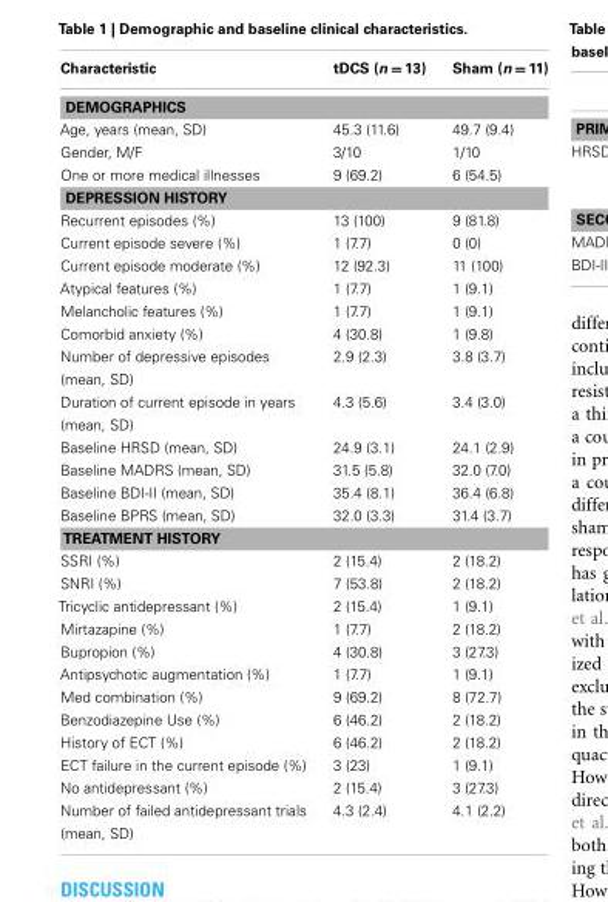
<table><thead><tr><td>Characteristic</td><td>tDCS (n = 13)</td><td>Sham (n = 11)</td></tr></thead><tbody><tr><td colspan="3">DEMOGRAPHICS</td></tr><tr><td>Age, years (mean, SD)</td><td>45.3 (11.6)</td><td>49.7 (9.4)</td></tr><tr><td>Gender, M/F</td><td>3/10</td><td>1/10</td></tr><tr><td>One or more medical illnesses</td><td>9 (69.2)</td><td>6 (54.5)</td></tr><tr><td colspan="3">DEPRESSION HISTORY</td></tr><tr><td>Recurrent episodes (%)</td><td>13 (100)</td><td>9 (81.8)</td></tr><tr><td>Current episode severe (%)</td><td>1 (7.7)</td><td>0 (0)</td></tr><tr><td>Current episode moderate (%)</td><td>12 (92.3)</td><td>11 (100)</td></tr><tr><td>Atypical features (%)</td><td>1 (7.7)</td><td>1 (9.1)</td></tr><tr><td>Melancholic features (%)</td><td>1 (7.7)</td><td>1 (9.1)</td></tr><tr><td>Comorbid anxiety (%)</td><td>4 (30.8)</td><td>1 (9.8)</td></tr><tr><td>Number of depressive episodes (mean, SD)</td><td>2.9 (2.3)</td><td>3.8 (3.7)</td></tr><tr><td>Duration of current episode in years (mean, SD)</td><td>4.3 (5.6)</td><td>3.4 (3.0)</td></tr><tr><td>Baseline HRSD (mean, SD)</td><td>24.9 (3.1)</td><td>24.1 (2.9)</td></tr><tr><td>Baseline MADRS (mean, SD)</td><td>31.5 (5.8)</td><td>32.0 (7.0)</td></tr><tr><td>Baseline BDI-II (mean, SD)</td><td>35.4 (8.1)</td><td>36.4 (6.8)</td></tr><tr><td>Baseline BPRS (mean, SD)</td><td>32.0 (3.3)</td><td>31.4 (3.7)</td></tr><tr><td colspan="3">TREATMENT HISTORY</td></tr><tr><td>SSRI (%)</td><td>2 (15.4)</td><td>2 (18.2)</td></tr><tr><td>SNRI (%)</td><td>7 (53.8)</td><td>2 (18.2)</td></tr><tr><td>Tricyclic antidepressant (%)</td><td>2 (15.4)</td><td>1 (9.1)</td></tr><tr><td>Mirtazapine (%)</td><td>1 (7.7)</td><td>2 (18.2)</td></tr><tr><td>Bupropion (%)</td><td>4 (30.8)</td><td>3 (27.3)</td></tr><tr><td>Antipsychotic augmentation (%)</td><td>1 (7.7)</td><td>1 (9.1)</td></tr><tr><td>Med combination (%)</td><td>9 (69.2)</td><td>8 (72.7)</td></tr><tr><td>Benzodiazepine Use (%)</td><td>6 (46.2)</td><td>2 (18.2)</td></tr><tr><td>History of ECT (%)</td><td>6 (46.2)</td><td>2 (18.2)</td></tr><tr><td>ECT failure in the current episode (%)</td><td>3 (23)</td><td>1 (9.1)</td></tr><tr><td>No antidepressant (%)</td><td>2 (15.4)</td><td>3 (27.3)</td></tr><tr><td>Number of failed antidepressant trials (mean, SD)</td><td>4.3 (2.4)</td><td>4.1 (2.2)</td></tr></tbody></table>